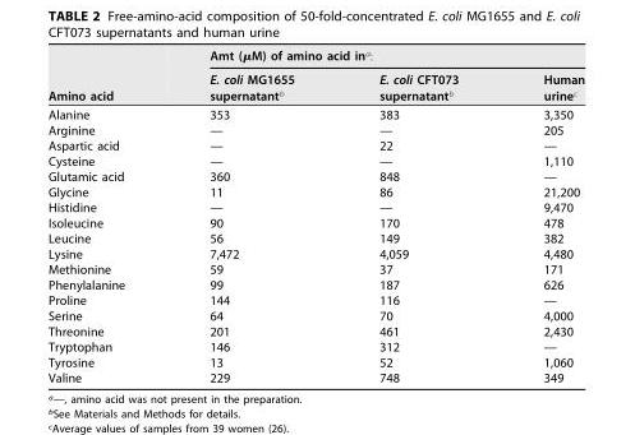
<table><thead><tr><td rowspan="2">Amino acid</td><td colspan="3">Amt (µM) of amino acid in<sup>a</sup>:</td></tr><tr><td>E. coli MG1655 supernatant<sup>b</sup></td><td>E. coli CFT073 supernatant<sup>b</sup></td><td>Human urine<sup>c</sup></td></tr></thead><tbody><tr><td>Alanine</td><td>353</td><td>383</td><td>3,350</td></tr><tr><td>Arginine</td><td>—</td><td>—</td><td>205</td></tr><tr><td>Aspartic acid</td><td>—</td><td>22</td><td>—</td></tr><tr><td>Cysteine</td><td>—</td><td>—</td><td>1,110</td></tr><tr><td>Glutamic acid</td><td>360</td><td>848</td><td>—</td></tr><tr><td>Glycine</td><td>11</td><td>86</td><td>21,200</td></tr><tr><td>Histidine</td><td>—</td><td>—</td><td>9,470</td></tr><tr><td>Isoleucine</td><td>90</td><td>170</td><td>478</td></tr><tr><td>Leucine</td><td>56</td><td>149</td><td>382</td></tr><tr><td>Lysine</td><td>7,472</td><td>4,059</td><td>4,480</td></tr><tr><td>Methionine</td><td>59</td><td>37</td><td>171</td></tr><tr><td>Phenylalanine</td><td>99</td><td>187</td><td>626</td></tr><tr><td>Proline</td><td>144</td><td>116</td><td>—</td></tr><tr><td>Serine</td><td>64</td><td>70</td><td>4,000</td></tr><tr><td>Threonine</td><td>201</td><td>461</td><td>2,430</td></tr><tr><td>Tryptophan</td><td>146</td><td>312</td><td>—</td></tr><tr><td>Tyrosine</td><td>13</td><td>52</td><td>1,060</td></tr><tr><td>Valine</td><td>229</td><td>748</td><td>349</td></tr></tbody></table>